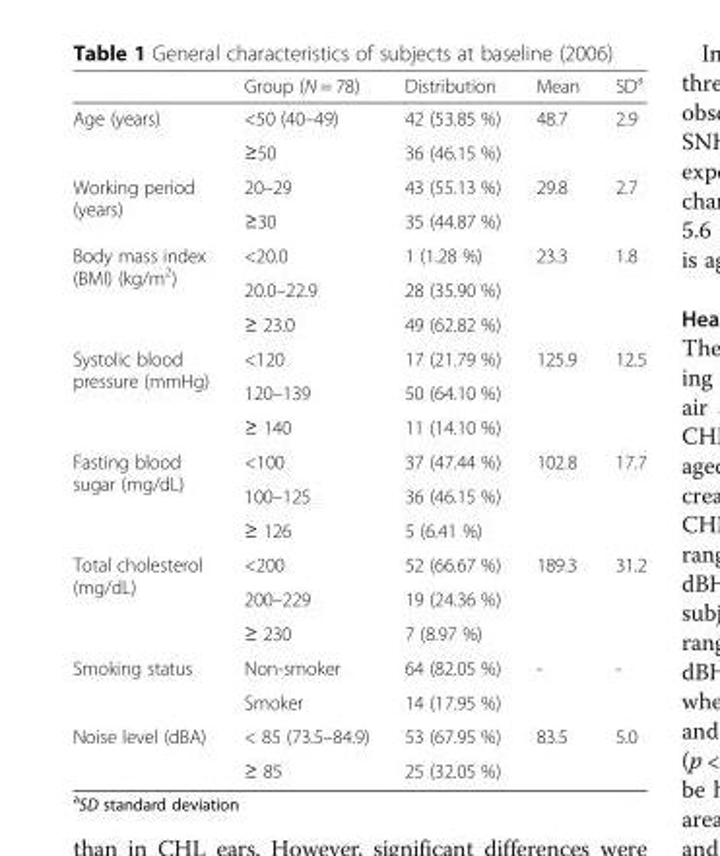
<table><thead><tr><td></td><td>Group (N = 78)</td><td>Distribution</td><td>Mean</td><td>SD<sup>a</sup></td></tr></thead><tbody><tr><td rowspan="2">Age (years)</td><td>&lt;50 (40–49)</td><td>42 (53.85 %)</td><td rowspan="2">48.7</td><td rowspan="2">2.9</td></tr><tr><td>≥50</td><td>36 (46.15 %)</td></tr><tr><td rowspan="2">Working period (years)</td><td>20–29</td><td>43 (55.13 %)</td><td rowspan="2">29.8</td><td rowspan="2">2.7</td></tr><tr><td>≥30</td><td>35 (44.87 %)</td></tr><tr><td rowspan="3">Body mass index (BMI) (kg/m<sup>2</sup>)</td><td>&lt;20.0</td><td>1 (1.28 %)</td><td rowspan="3">23.3</td><td rowspan="3">1.8</td></tr><tr><td>20.0–22.9</td><td>28 (35.90 %)</td></tr><tr><td>≥ 23.0</td><td>49 (62.82 %)</td></tr><tr><td rowspan="3">Systolic blood pressure (mmHg)</td><td>&lt;120</td><td>17 (21.79 %)</td><td rowspan="3">125.9</td><td rowspan="3">12.5</td></tr><tr><td>120–139</td><td>50 (64.10 %)</td></tr><tr><td>≥ 140</td><td>11 (14.10 %)</td></tr><tr><td rowspan="3">Fasting blood sugar (mg/dL)</td><td>&lt;100</td><td>37 (47.44 %)</td><td rowspan="3">102.8</td><td rowspan="3">17.7</td></tr><tr><td>100–125</td><td>36 (46.15 %)</td></tr><tr><td>≥ 126</td><td>5 (6.41 %)</td></tr><tr><td rowspan="3">Total cholesterol (mg/dL)</td><td>&lt;200</td><td>52 (66.67 %)</td><td rowspan="3">189.3</td><td rowspan="3">31.2</td></tr><tr><td>200–229</td><td>19 (24.36 %)</td></tr><tr><td>≥ 230</td><td>7 (8.97 %)</td></tr><tr><td rowspan="2">Smoking status</td><td>Non-smoker</td><td>64 (82.05 %)</td><td rowspan="2">-</td><td rowspan="2">-</td></tr><tr><td>Smoker</td><td>14 (17.95 %)</td></tr><tr><td rowspan="2">Noise level (dBA)</td><td>&lt; 85 (73.5–84.9)</td><td>53 (67.95 %)</td><td rowspan="2">83.5</td><td rowspan="2">5.0</td></tr><tr><td>≥ 85</td><td>25 (32.05 %)</td></tr></tbody></table>